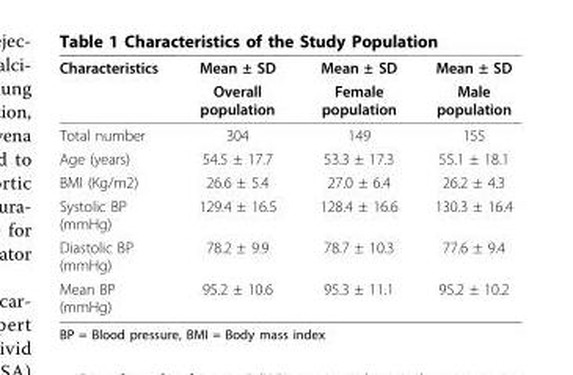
<table><thead><tr><td rowspan="2">Characteristics</td><td rowspan="2">Mean ± SD Overall population</td><td rowspan="2">Mean ± SD Female population</td><td rowspan="2">Mean ± SD Male population</td></tr><tr></tr></thead><tbody><tr><td>Total number</td><td>304</td><td>149</td><td>155</td></tr><tr><td>Age (years)</td><td>54.5 ± 17.7</td><td>53.3 ± 17.3</td><td>55.1 ± 18.1</td></tr><tr><td>BMI (Kg/m2)</td><td>26.6 ± 5.4</td><td>27.0 ± 6.4</td><td>26.2 ± 4.3</td></tr><tr><td>Systolic BP (mmHg)</td><td>129.4 ± 16.5</td><td>128.4 ± 16.6</td><td>130.3 ± 16.4</td></tr><tr><td>Diastolic BP (mmHg)</td><td>78.2 ± 9.9</td><td>78.7 ± 10.3</td><td>77.6 ± 9.4</td></tr><tr><td>Mean BP (mmHg)</td><td>95.2 ± 10.6</td><td>95.3 ± 11.1</td><td>95.2 ± 10.2</td></tr></tbody></table>